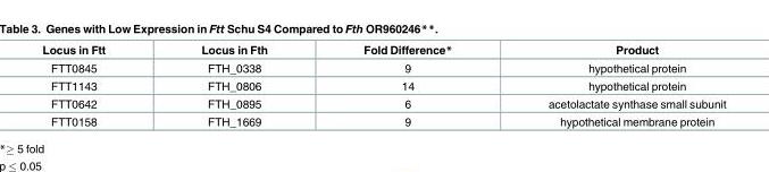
<table><thead><tr><td>Locus in Ftt</td><td>Locus in Fth</td><td>Fold Difference*</td><td>Product</td></tr></thead><tbody><tr><td>FTT0845</td><td>FTH_0338</td><td>9</td><td>hypothetical protein</td></tr><tr><td>FTT1143</td><td>FTH_0806</td><td>14</td><td>hypothetical protein</td></tr><tr><td>FTT0642</td><td>FTH_0895</td><td>6</td><td>acetolactate synthase small subunit</td></tr><tr><td>FTT0158</td><td>FTH_1669</td><td>9</td><td>hypothetical membrane protein</td></tr></tbody></table>